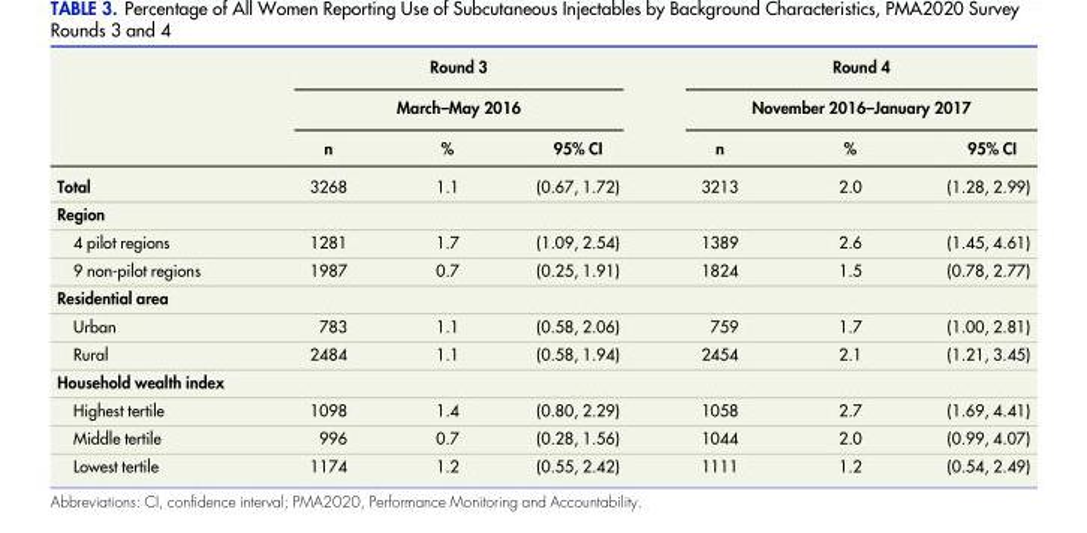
<table><thead><tr><td rowspan="3"></td><td rowspan="2" colspan="3">Round 3 March–May 2016</td><td rowspan="2" colspan="3">Round 4 November 2016–January 2017</td></tr><tr></tr><tr><td>n</td><td>%</td><td>95% CI</td><td>n</td><td>%</td><td>95% CI</td></tr></thead><tbody><tr><td>Total</td><td>3268</td><td>1.1</td><td>(0.67, 1.72)</td><td>3213</td><td>2.0</td><td>(1.28, 2.99)</td></tr><tr><td colspan="7">Region</td></tr><tr><td>4 pilot regions</td><td>1281</td><td>1.7</td><td>(1.09, 2.54)</td><td>1389</td><td>2.6</td><td>(1.45, 4.61)</td></tr><tr><td>9 non-pilot regions</td><td>1987</td><td>0.7</td><td>(0.25, 1.91)</td><td>1824</td><td>1.5</td><td>(0.78, 2.77)</td></tr><tr><td colspan="7">Residential area</td></tr><tr><td>Urban</td><td>783</td><td>1.1</td><td>(0.58, 2.06)</td><td>759</td><td>1.7</td><td>(1.00, 2.81)</td></tr><tr><td>Rural</td><td>2484</td><td>1.1</td><td>(0.58, 1.94)</td><td>2454</td><td>2.1</td><td>(1.21, 3.45)</td></tr><tr><td colspan="7">Household wealth index</td></tr><tr><td>Highest tertile</td><td>1098</td><td>1.4</td><td>(0.80, 2.29)</td><td>1058</td><td>2.7</td><td>(1.69, 4.41)</td></tr><tr><td>Middle tertile</td><td>996</td><td>0.7</td><td>(0.28, 1.56)</td><td>1044</td><td>2.0</td><td>(0.99, 4.07)</td></tr><tr><td>Lowest tertile</td><td>1174</td><td>1.2</td><td>(0.55, 2.42)</td><td>1111</td><td>1.2</td><td>(0.54, 2.49)</td></tr></tbody></table>